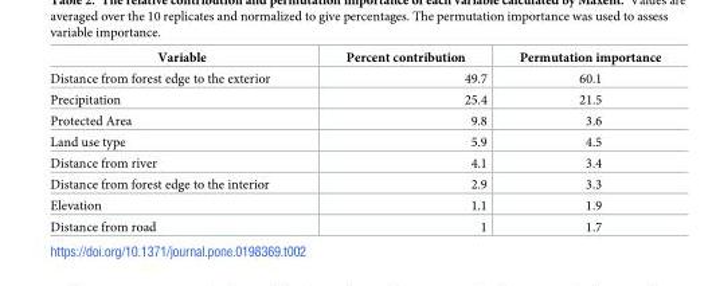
<table><thead><tr><td>Variable</td><td>Percent contribution</td><td>Permutation importance</td></tr></thead><tbody><tr><td>Distance from forest edge to the exterior</td><td>49.7</td><td>60.1</td></tr><tr><td>Precipitation</td><td>25.4</td><td>21.5</td></tr><tr><td>Protected Area</td><td>9.8</td><td>3.6</td></tr><tr><td>Land use type</td><td>5.9</td><td>4.5</td></tr><tr><td>Distance from river</td><td>4.1</td><td>3.4</td></tr><tr><td>Distance from forest edge to the interior</td><td>2.9</td><td>3.3</td></tr><tr><td>Elevation</td><td>1.1</td><td>1.9</td></tr><tr><td>Distance from road</td><td>1</td><td>1.7</td></tr></tbody></table>